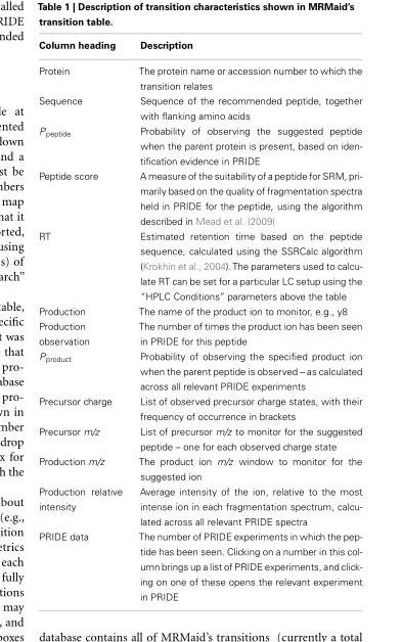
<table><thead><tr><td>Column heading</td><td>Description</td></tr></thead><tbody><tr><td>Protein</td><td>The protein name or accession number to which the transition relates</td></tr><tr><td>Sequence</td><td>Sequence of the recommended peptide, together with flanking amino acids</td></tr><tr><td>P<sub>peptide</sub></td><td>Probability of observing the suggested peptide when the parent protein is present, based on iden- tification evidence in PRIDE</td></tr><tr><td>Peptide score</td><td>A measure of the suitability of a peptide for SRM, pri- marily based on the quality of fragmentation spectra held in PRIDE for the peptide, using the algorithm described in Mead et al. (2009)</td></tr><tr><td>RT</td><td>Estimated retention time based on the peptide sequence, calculated using the SSRCalc algorithm (Krokhin et al., 2004).The parameters used to calcu- late RT can be set for a particular LC setup using the “HPLC Conditions” parameters above the table</td></tr><tr><td>Production</td><td>The name of the product ion to monitor, e.g., y8</td></tr><tr><td>Production observation</td><td>The number of times the product ion has been seen in PRIDE for this peptide</td></tr><tr><td>P<sub>product</sub></td><td>Probability of observing the specified product ion when the parent peptide is observed – as calculated across all relevant PRIDE experiments</td></tr><tr><td>Precursor charge</td><td>List of observed precursor charge states, with their frequency of occurrence in brackets</td></tr><tr><td>Precursor m/z</td><td>List of precursor m/z to monitor for the suggested peptide – one for each observed charge state</td></tr><tr><td>Production m/z</td><td>The product ion m/z window to monitor for the suggested ion</td></tr><tr><td>Production relative intensity</td><td>Average intensity of the ion, relative to the most intense ion in each fragmentation spectrum, calcu- lated across all relevant PRIDE spectra</td></tr><tr><td>PRIDE data</td><td>The number of PRIDE experiments in which the pep- tide has been seen. Clicking on a number in this col- umn brings up a list of PRIDE experiments, and click- ing on one of these opens the relevant experiment in PRIDE</td></tr></tbody></table>